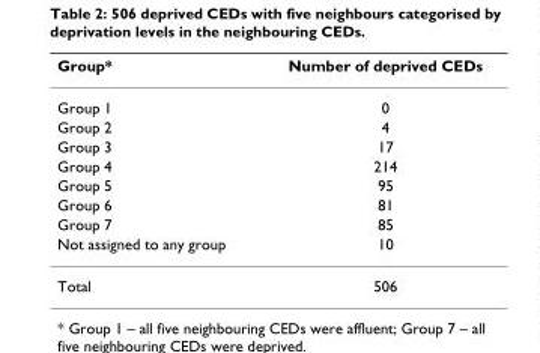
<table><thead><tr><td>Group*</td><td>Number of deprived CEDs</td></tr></thead><tbody><tr><td>Group 1</td><td>0</td></tr><tr><td>Group 2</td><td>4</td></tr><tr><td>Group 3</td><td>17</td></tr><tr><td>Group 4</td><td>214</td></tr><tr><td>Group 5</td><td>95</td></tr><tr><td>Group 6</td><td>81</td></tr><tr><td>Group 7</td><td>85</td></tr><tr><td>Not assigned to any group</td><td>10</td></tr><tr><td>Total</td><td>506</td></tr></tbody></table>